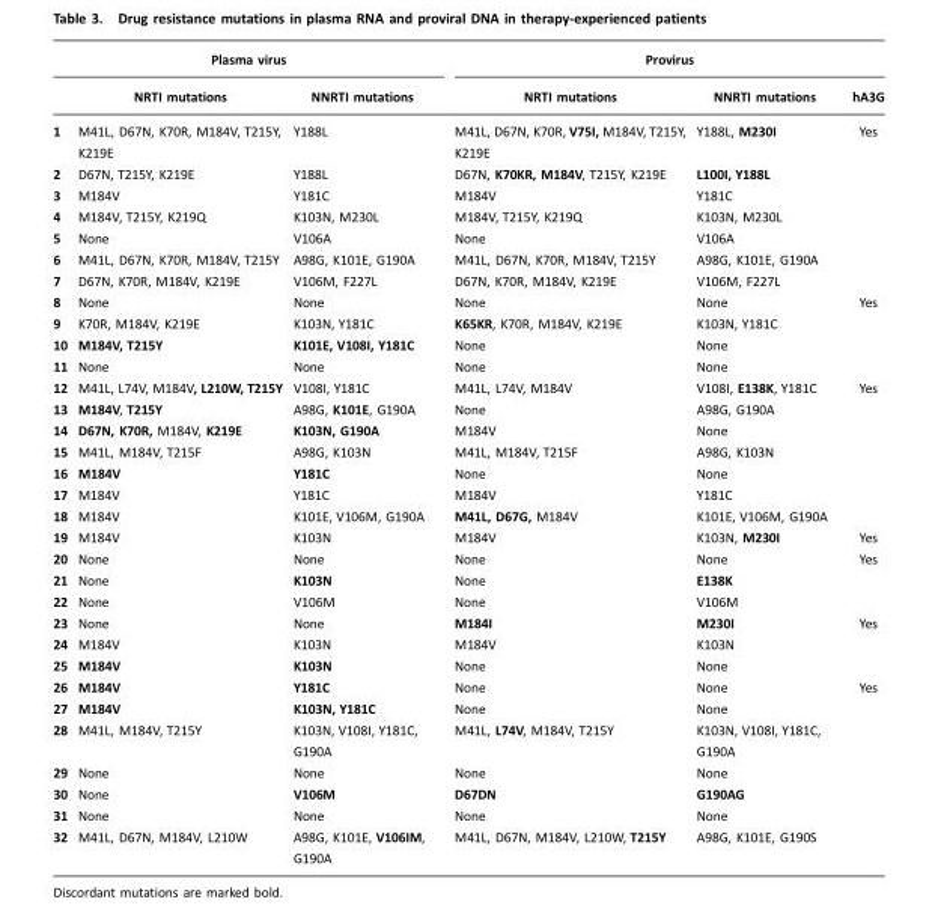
<table><thead><tr><td colspan="3">Plasma virus</td><td colspan="3">Provirus</td></tr><tr><td></td><td>NRTI mutations</td><td>NNRTI mutations</td><td>NRTI mutations</td><td>NNRTI mutations</td><td>hA3G</td></tr></thead><tbody><tr><td>1</td><td>M41L, D67N, K70R, M184V, T215Y, K219E</td><td>Y188L</td><td>M41L, D67N, K70R, V75I, M184V, T215Y, K219E</td><td>Y188L, M230I</td><td>Yes</td></tr><tr><td>2</td><td>D67N, T215Y, K219E</td><td>Y188L</td><td>D67N, K70KR, M184V, T215Y, K219E</td><td>L100I, Y188L</td><td></td></tr><tr><td>3</td><td>M184V</td><td>Y181C</td><td>M184V</td><td>Y181C</td><td></td></tr><tr><td>4</td><td>M184V, T215Y, K219Q</td><td>K103N, M230L</td><td>M184V, T215Y, K219Q</td><td>K103N, M230L</td><td></td></tr><tr><td>5</td><td>None</td><td>V106A</td><td>None</td><td>V106A</td><td></td></tr><tr><td>6</td><td>M41L, D67N, K70R, M184V, T215Y</td><td>A98G, K101E, G190A</td><td>M41L, D67N, K70R, M184V, T215Y</td><td>A98G, K101E, G190A</td><td></td></tr><tr><td>7</td><td>D67N, K70R, M184V, K219E</td><td>V106M, F227L</td><td>D67N, K70R, M184V, K219E</td><td>V106M, F227L</td><td></td></tr><tr><td>8</td><td>None</td><td>None</td><td>None</td><td>None</td><td>Yes</td></tr><tr><td>9</td><td>K70R, M184V, K219E</td><td>K103N, Y181C</td><td>K65KR, K70R, M184V, K219E</td><td>K103N, Y181C</td><td></td></tr><tr><td>10</td><td>M184V, T215Y</td><td>K101E, V108I, Y181C</td><td>None</td><td>None</td><td></td></tr><tr><td>11</td><td>None</td><td>None</td><td>None</td><td>None</td><td></td></tr><tr><td>12</td><td>M41L, L74V, M184V, L210W, T215Y</td><td>V108I, Y181C</td><td>M41L, L74V, M184V</td><td>V108I, E138K, Y181C</td><td>Yes</td></tr><tr><td>13</td><td>M184V, T215Y</td><td>A98G, K101E, G190A</td><td>None</td><td>A98G, G190A</td><td></td></tr><tr><td>14</td><td>D67N, K70R, M184V, K219E</td><td>K103N, G190A</td><td>M184V</td><td>None</td><td></td></tr><tr><td>15</td><td>M41L, M184V, T215F</td><td>A98G, K103N</td><td>M41L, M184V, T215F</td><td>A98G, K103N</td><td></td></tr><tr><td>16</td><td>M184V</td><td>Y181C</td><td>None</td><td>None</td><td></td></tr><tr><td>17</td><td>M184V</td><td>Y181C</td><td>M184V</td><td>Y181C</td><td></td></tr><tr><td>18</td><td>M184V</td><td>K101E, V106M, G190A</td><td>M41L, D67G, M184V</td><td>K101E, V106M, G190A</td><td></td></tr><tr><td>19</td><td>M184V</td><td>K103N</td><td>M184V</td><td>K103N, M230I</td><td>Yes</td></tr><tr><td>20</td><td>None</td><td>None</td><td>None</td><td>None</td><td>Yes</td></tr><tr><td>21</td><td>None</td><td>K103N</td><td>None</td><td>E138K</td><td></td></tr><tr><td>22</td><td>None</td><td>V106M</td><td>None</td><td>V106M</td><td></td></tr><tr><td>23</td><td>None</td><td>None</td><td>M184I</td><td>M230I</td><td>Yes</td></tr><tr><td>24</td><td>M184V</td><td>K103N</td><td>M184V</td><td>K103N</td><td></td></tr><tr><td>25</td><td>M184V</td><td>K103N</td><td>None</td><td>None</td><td></td></tr><tr><td>26</td><td>M184V</td><td>Y181C</td><td>None</td><td>None</td><td>Yes</td></tr><tr><td>27</td><td>M184V</td><td>K103N, Y181C</td><td>None</td><td>None</td><td></td></tr><tr><td>28</td><td>M41L, M184V, T215Y</td><td>K103N, V108I, Y181C, G190A</td><td>M41L, L74V, M184V, T215Y</td><td>K103N, V108I, Y181C, G190A</td><td></td></tr><tr><td>29</td><td>None</td><td>None</td><td>None</td><td>None</td><td></td></tr><tr><td>30</td><td>None</td><td>V106M</td><td>D67DN</td><td>G190AG</td><td></td></tr><tr><td>31</td><td>None</td><td>None</td><td>None</td><td>None</td><td></td></tr><tr><td>32</td><td>M41L, D67N, M184V, L210W</td><td>A98G, K101E, V106IM, G190A</td><td>M41L, D67N, M184V, L210W, T215Y</td><td>A98G, K101E, G190S</td><td></td></tr></tbody></table>